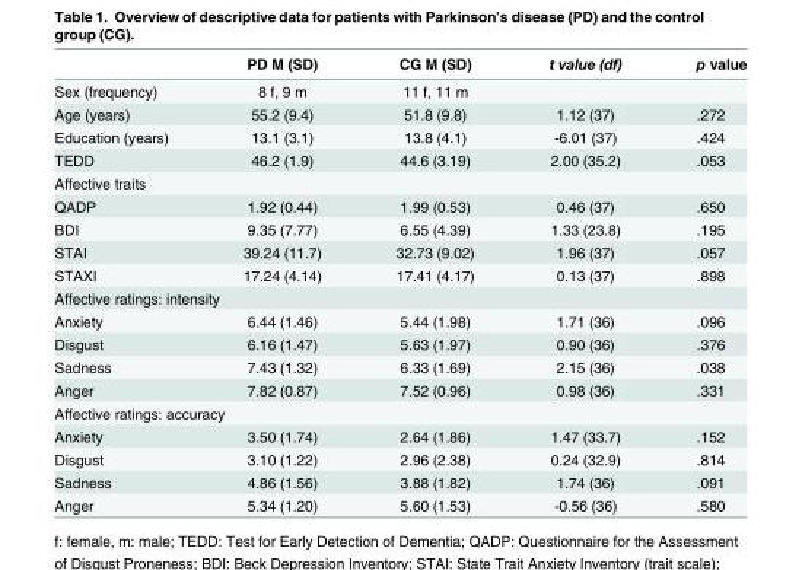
<table><thead><tr><td></td><td>PD M (SD)</td><td>CG M (SD)</td><td>t value (df)</td><td>p value</td></tr></thead><tbody><tr><td>Sex (frequency)</td><td>8 f, 9 m</td><td>11 f, 11 m</td><td></td><td></td></tr><tr><td>Age (years)</td><td>55.2 (9.4)</td><td>51.8 (9.8)</td><td>1.12 (37)</td><td>.272</td></tr><tr><td>Education (years)</td><td>13.1 (3.1)</td><td>13.8 (4.1)</td><td>-6.01 (37)</td><td>.424</td></tr><tr><td>TEDD</td><td>46.2 (1.9)</td><td>44.6 (3.19)</td><td>2.00 (35.2)</td><td>.053</td></tr><tr><td colspan="5">Affective traits</td></tr><tr><td>QADP</td><td>1.92 (0.44)</td><td>1.99 (0.53)</td><td>0.46 (37)</td><td>.650</td></tr><tr><td>BDI</td><td>9.35 (7.77)</td><td>6.55 (4.39)</td><td>1.33 (23.8)</td><td>.195</td></tr><tr><td>STAI</td><td>39.24 (11.7)</td><td>32.73 (9.02)</td><td>1.96 (37)</td><td>.057</td></tr><tr><td>STAXI</td><td>17.24 (4.14)</td><td>17.41 (4.17)</td><td>0.13 (37)</td><td>.898</td></tr><tr><td colspan="5">Affective ratings: intensity</td></tr><tr><td>Anxiety</td><td>6.44 (1.46)</td><td>5.44 (1.98)</td><td>1.71 (36)</td><td>.096</td></tr><tr><td>Disgust</td><td>6.16 (1.47)</td><td>5.63 (1.97)</td><td>0.90 (36)</td><td>.376</td></tr><tr><td>Sadness</td><td>7.43 (1.32)</td><td>6.33 (1.69)</td><td>2.15 (36)</td><td>.038</td></tr><tr><td>Anger</td><td>7.82 (0.87)</td><td>7.52 (0.96)</td><td>0.98 (36)</td><td>.331</td></tr><tr><td colspan="5">Affective ratings: accuracy</td></tr><tr><td>Anxiety</td><td>3.50 (1.74)</td><td>2.64 (1.86)</td><td>1.47 (33.7)</td><td>.152</td></tr><tr><td>Disgust</td><td>3.10 (1.22)</td><td>2.96 (2.38)</td><td>0.24 (32.9)</td><td>.814</td></tr><tr><td>Sadness</td><td>4.86 (1.56)</td><td>3.88 (1.82)</td><td>1.74 (36)</td><td>.091</td></tr><tr><td>Anger</td><td>5.34 (1.20)</td><td>5.60 (1.53)</td><td>-0.56 (36)</td><td>.580</td></tr></tbody></table>